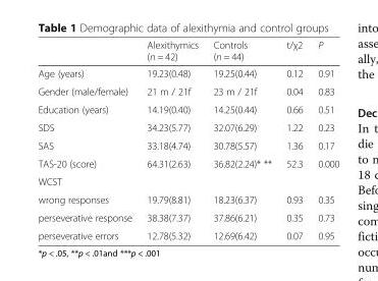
<table><thead><tr><td></td><td>Alexithymics (n = 42)</td><td>Controls (n = 44)</td><td>t/χ2</td><td>P</td></tr></thead><tbody><tr><td>Age (years)</td><td>19.23(0.48)</td><td>19.25(0.44)</td><td>0.12</td><td>0.91</td></tr><tr><td>Gender (male/female)</td><td>21 m / 21f</td><td>23 m / 21f</td><td>0.04</td><td>0.83</td></tr><tr><td>Education (years)</td><td>14.19(0.40)</td><td>14.25(0.44)</td><td>0.66</td><td>0.51</td></tr><tr><td>SDS</td><td>34.23(5.77)</td><td>32.07(6.29)</td><td>1.22</td><td>0.23</td></tr><tr><td>SAS</td><td>33.18(4.74)</td><td>30.78(5.57)</td><td>1.36</td><td>0.17</td></tr><tr><td>TAS-20 (score)</td><td>64.31(2.63)</td><td>36.82(2.24)* **</td><td>52.3</td><td>0.000</td></tr><tr><td colspan="5">WCST</td></tr><tr><td>wrong responses</td><td>19.79(8.81)</td><td>18.23(6.37)</td><td>0.93</td><td>0.35</td></tr><tr><td>perseverative response</td><td>38.38(7.37)</td><td>37.86(6.21)</td><td>0.35</td><td>0.73</td></tr><tr><td>perseverative errors</td><td>12.78(5.32)</td><td>12.69(6.42)</td><td>0.07</td><td>0.95</td></tr></tbody></table>